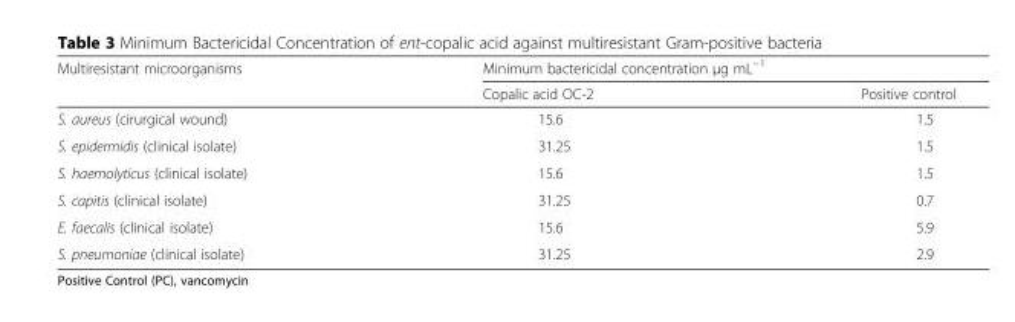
<table><thead><tr><td rowspan="2">Multiresistant microorganisms</td><td colspan="2">Minimum bactericidal concentration µg mL<sup>−1</sup></td></tr><tr><td>Copalic acid OC-2</td><td>Positive control</td></tr></thead><tbody><tr><td>S. aureus (cirurgical wound)</td><td>15.6</td><td>1.5</td></tr><tr><td>S. epidermidis (clinical isolate)</td><td>31.25</td><td>1.5</td></tr><tr><td>S. haemolyticus (clinical isolate)</td><td>15.6</td><td>1.5</td></tr><tr><td>S. capitis (clinical isolate)</td><td>31.25</td><td>0.7</td></tr><tr><td>E. faecalis (clinical isolate)</td><td>15.6</td><td>5.9</td></tr><tr><td>S. pneumoniae (clinical isolate)</td><td>31.25</td><td>2.9</td></tr></tbody></table>